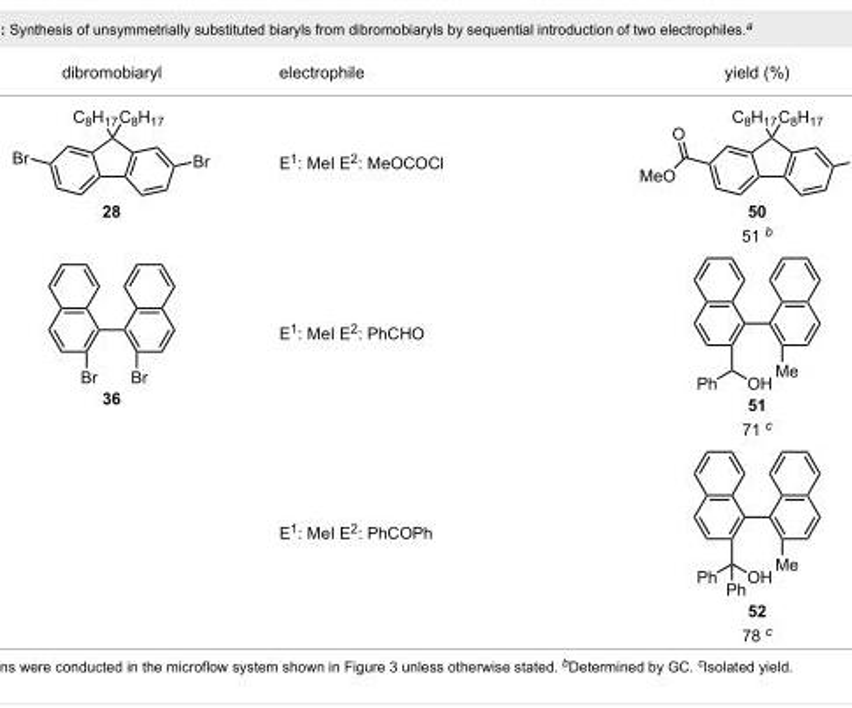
<table><tbody><tr><td>dibromobiaryl</td><td>electrophile</td><td>yield (%)</td></tr><tr><td rowspan="2">28</td><td>E<sup>1</sup>: MeI E<sup>2</sup>: MeOCOCl</td><td>50</td></tr><tr><td></td><td>51 <sup>b</sup></td></tr><tr><td rowspan="4">36</td><td>E<sup>1</sup>: MeI E<sup>2</sup>: PhCHO</td><td>51</td></tr><tr><td></td><td>71 <sup>c</sup></td></tr><tr><td>E<sup>1</sup>: MeI E<sup>2</sup>: PhCOPh</td><td>52</td></tr><tr><td></td><td>78 <sup>c</sup></td></tr></tbody></table>